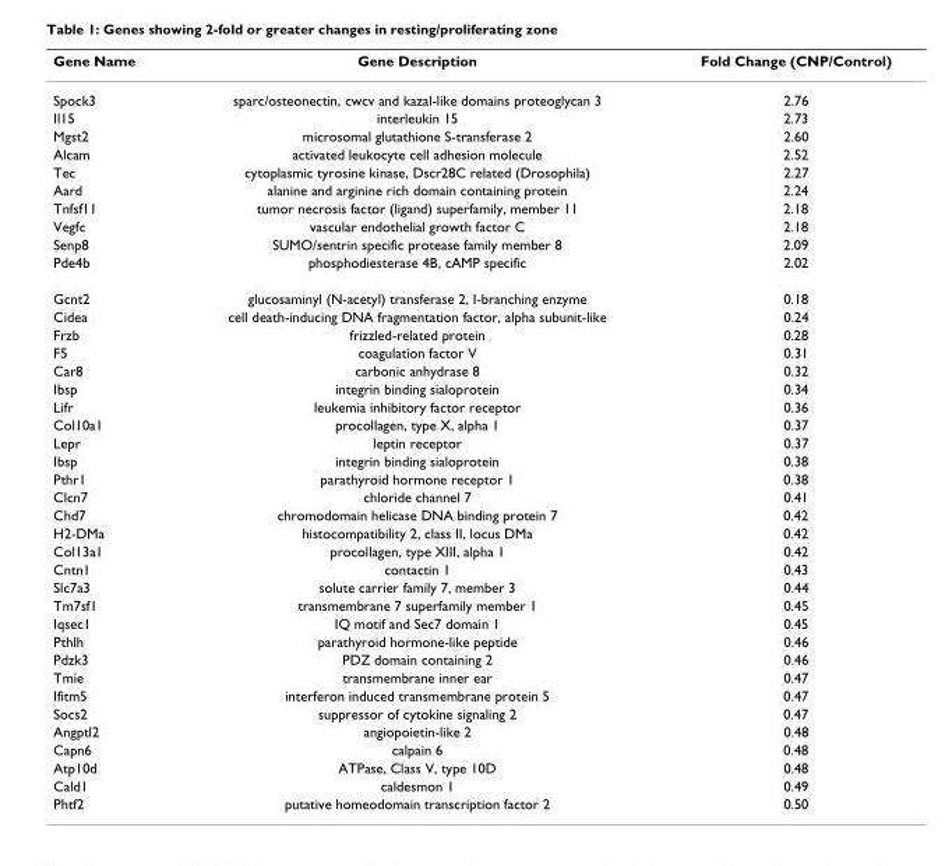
<table><thead><tr><td>Gene Name</td><td>Gene Description</td><td>Fold Change (CNP/Control)</td></tr></thead><tbody><tr><td>Spock3</td><td>sparc/osteonectin, cwcv and kazal-like domains proteoglycan 3</td><td>2.76</td></tr><tr><td>Il15</td><td>interleukin 15</td><td>2.73</td></tr><tr><td>Mgst2</td><td>microsomal glutathione S-transferase 2</td><td>2.60</td></tr><tr><td>Alcam</td><td>activated leukocyte cell adhesion molecule</td><td>2.52</td></tr><tr><td>Tec</td><td>cytoplasmic tyrosine kinase, Dscr28C related (Drosophila)</td><td>2.27</td></tr><tr><td>Aard</td><td>alanine and arginine rich domain containing protein</td><td>2.24</td></tr><tr><td>Tnfsf11</td><td>tumor necrosis factor (ligand) superfamily, member 11</td><td>2.18</td></tr><tr><td>Vegfc</td><td>vascular endothelial growth factor C</td><td>2.18</td></tr><tr><td>Senp8</td><td>SUMO/sentrin specific protease family member 8</td><td>2.09</td></tr><tr><td>Pde4b</td><td>phosphodiesterase 4B, cAMP specific</td><td>2.02</td></tr><tr><td>Gcnt2</td><td>glucosaminyl (N-acetyl) transferase 2, I-branching enzyme</td><td>0.18</td></tr><tr><td>Cidea</td><td>cell death-inducing DNA fragmentation factor, alpha subunit-like</td><td>0.24</td></tr><tr><td>Frzb</td><td>frizzled-related protein</td><td>0.28</td></tr><tr><td>F5</td><td>coagulation factor V</td><td>0.31</td></tr><tr><td>Car8</td><td>carbonic anhydrase 8</td><td>0.32</td></tr><tr><td>Ibsp</td><td>integrin binding sialoprotein</td><td>0.34</td></tr><tr><td>Lifr</td><td>leukemia inhibitory factor receptor</td><td>0.36</td></tr><tr><td>Col10a1</td><td>procollagen, type X, alpha 1</td><td>0.37</td></tr><tr><td>Lepr</td><td>leptin receptor</td><td>0.37</td></tr><tr><td>Ibsp</td><td>integrin binding sialoprotein</td><td>0.38</td></tr><tr><td>Pthr1</td><td>parathyroid hormone receptor 1</td><td>0.38</td></tr><tr><td>Clcn7</td><td>chloride channel 7</td><td>0.41</td></tr><tr><td>Chd7</td><td>chromodomain helicase DNA binding protein 7</td><td>0.42</td></tr><tr><td>H2-DMa</td><td>histocompatibility 2, class II, locus DMa</td><td>0.42</td></tr><tr><td>Col13a1</td><td>procollagen, type XIII, alpha 1</td><td>0.42</td></tr><tr><td>Cntn1</td><td>contactin 1</td><td>0.43</td></tr><tr><td>Slc7a3</td><td>solute carrier family 7, member 3</td><td>0.44</td></tr><tr><td>Tm7sf1</td><td>transmembrane 7 superfamily member 1</td><td>0.45</td></tr><tr><td>Iqsec1</td><td>IQ motif and Sec7 domain 1</td><td>0.45</td></tr><tr><td>Pthlh</td><td>parathyroid hormone-like peptide</td><td>0.46</td></tr><tr><td>Pdzk3</td><td>PDZ domain containing 2</td><td>0.46</td></tr><tr><td>Tmie</td><td>transmembrane inner ear</td><td>0.47</td></tr><tr><td>Ifitm5</td><td>interferon induced transmembrane protein 5</td><td>0.47</td></tr><tr><td>Socs2</td><td>suppressor of cytokine signaling 2</td><td>0.47</td></tr><tr><td>Angptl2</td><td>angiopoietin-like 2</td><td>0.48</td></tr><tr><td>Capn6</td><td>calpain 6</td><td>0.48</td></tr><tr><td>Atp10d</td><td>ATPase, Class V, type 10D</td><td>0.48</td></tr><tr><td>Cald1</td><td>caldesmon 1</td><td>0.49</td></tr><tr><td>Phtf2</td><td>putative homeodomain transcription factor 2</td><td>0.50</td></tr></tbody></table>